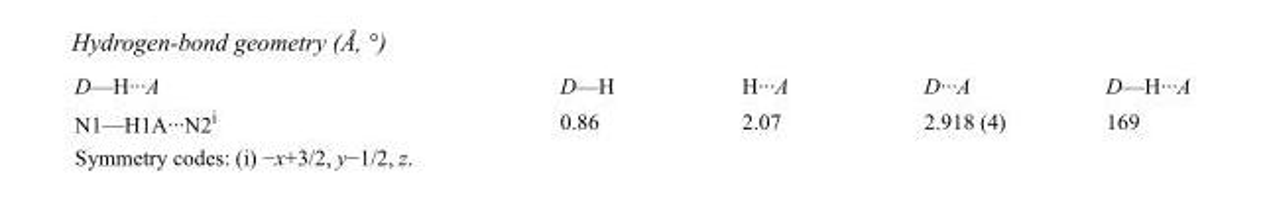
<table><tbody><tr><td>D—H···A</td><td>D—H</td><td>H···A</td><td>D···A</td><td>D—H···A</td></tr><tr><td>N1—H1A···N2<sup>i</sup></td><td>0.86</td><td>2.07</td><td>2.918 (4)</td><td>169</td></tr></tbody></table>